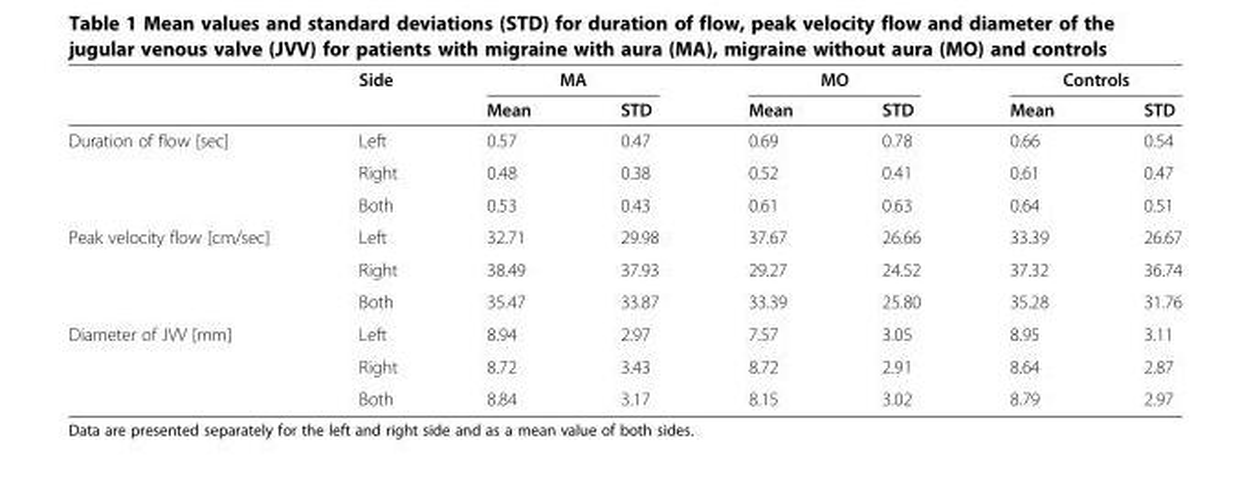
<table><thead><tr><td rowspan="2"></td><td rowspan="2">Side</td><td colspan="2">MA</td><td colspan="2">MO</td><td colspan="2">Controls</td></tr><tr><td>Mean</td><td>STD</td><td>Mean</td><td>STD</td><td>Mean</td><td>STD</td></tr></thead><tbody><tr><td rowspan="3">Duration of flow [sec]</td><td>Left</td><td>0.57</td><td>0.47</td><td>0.69</td><td>0.78</td><td>0.66</td><td>0.54</td></tr><tr><td>Right</td><td>0.48</td><td>0.38</td><td>0.52</td><td>0.41</td><td>0.61</td><td>0.47</td></tr><tr><td>Both</td><td>0.53</td><td>0.43</td><td>0.61</td><td>0.63</td><td>0.64</td><td>0.51</td></tr><tr><td rowspan="3">Peak velocity flow [cm/sec]</td><td>Left</td><td>32.71</td><td>29.98</td><td>37.67</td><td>26.66</td><td>33.39</td><td>26.67</td></tr><tr><td>Right</td><td>38.49</td><td>37.93</td><td>29.27</td><td>24.52</td><td>37.32</td><td>36.74</td></tr><tr><td>Both</td><td>35.47</td><td>33.87</td><td>33.39</td><td>25.80</td><td>35.28</td><td>31.76</td></tr><tr><td rowspan="3">Diameter of JVV [mm]</td><td>Left</td><td>8.94</td><td>2.97</td><td>7.57</td><td>3.05</td><td>8.95</td><td>3.11</td></tr><tr><td>Right</td><td>8.72</td><td>3.43</td><td>8.72</td><td>2.91</td><td>8.64</td><td>2.87</td></tr><tr><td>Both</td><td>8.84</td><td>3.17</td><td>8.15</td><td>3.02</td><td>8.79</td><td>2.97</td></tr></tbody></table>